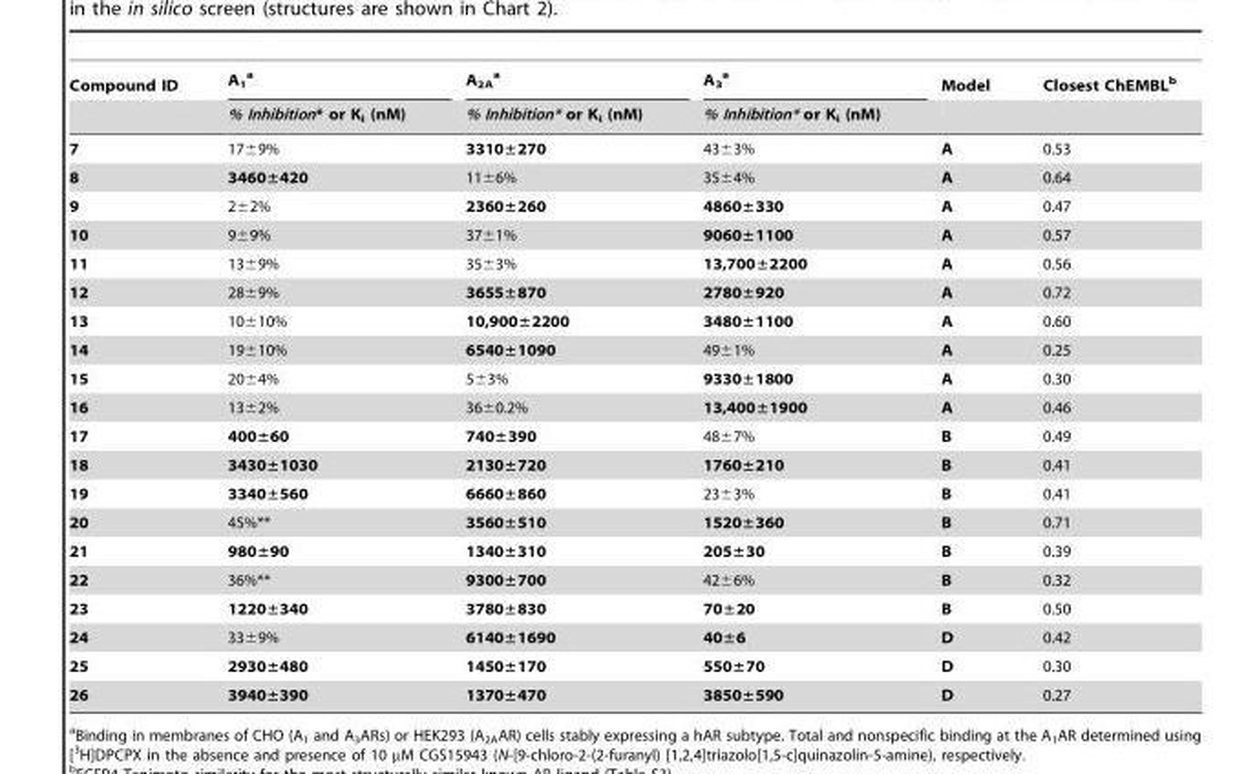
<table><thead><tr><td rowspan="2">Compound ID</td><td rowspan="2">A<sub>1</sub> a % Inhibition* or K<sub>i</sub> (nM)</td><td rowspan="2">A<sub>2A</sub> a % Inhibition* or K<sub>i</sub> (nM)</td><td rowspan="2">A<sub>3</sub> a % Inhibition* or K<sub>i</sub> (nM)</td><td rowspan="2">Model</td><td rowspan="2">Closest ChEMBL<sup>b</sup></td></tr><tr></tr></thead><tbody><tr><td>7</td><td>17±9%</td><td>3310±270</td><td>43±3%</td><td>A</td><td>0.53</td></tr><tr><td>8</td><td>3460±420</td><td>11±6%</td><td>35±4%</td><td>A</td><td>0.64</td></tr><tr><td>9</td><td>2±2%</td><td>2360±260</td><td>4860±330</td><td>A</td><td>0.47</td></tr><tr><td>10</td><td>9±9%</td><td>37±1%</td><td>9060±1100</td><td>A</td><td>0.57</td></tr><tr><td>11</td><td>13±9%</td><td>35±3%</td><td>13,700±2200</td><td>A</td><td>0.56</td></tr><tr><td>12</td><td>28±9%</td><td>3655±870</td><td>2780±920</td><td>A</td><td>0.72</td></tr><tr><td>13</td><td>10±10%</td><td>10,900±2200</td><td>3480±1100</td><td>A</td><td>0.60</td></tr><tr><td>14</td><td>19±10%</td><td>6540±1090</td><td>49±1%</td><td>A</td><td>0.25</td></tr><tr><td>15</td><td>20±4%</td><td>5±3%</td><td>9330±1800</td><td>A</td><td>0.30</td></tr><tr><td>16</td><td>13±2%</td><td>36±0.2%</td><td>13,400±1900</td><td>A</td><td>0.46</td></tr><tr><td>17</td><td>400±60</td><td>740±390</td><td>48±7%</td><td>B</td><td>0.49</td></tr><tr><td>18</td><td>3430±1030</td><td>2130±720</td><td>1760±210</td><td>B</td><td>0.41</td></tr><tr><td>19</td><td>3340±560</td><td>6660±860</td><td>23±3%</td><td>B</td><td>0.41</td></tr><tr><td>20</td><td>45%**</td><td>3560±510</td><td>1520±360</td><td>B</td><td>0.71</td></tr><tr><td>21</td><td>980±90</td><td>1340±310</td><td>205±30</td><td>B</td><td>0.39</td></tr><tr><td>22</td><td>36%**</td><td>9300±700</td><td>42±6%</td><td>B</td><td>0.32</td></tr><tr><td>23</td><td>1220±340</td><td>3780±830</td><td>70±20</td><td>B</td><td>0.50</td></tr><tr><td>24</td><td>33±9%</td><td>6140±1690</td><td>40±6</td><td>D</td><td>0.42</td></tr><tr><td>25</td><td>2930±480</td><td>1450±170</td><td>550±70</td><td>D</td><td>0.30</td></tr><tr><td>26</td><td>3940±390</td><td>1370±470</td><td>3850±590</td><td>D</td><td>0.27</td></tr></tbody></table>